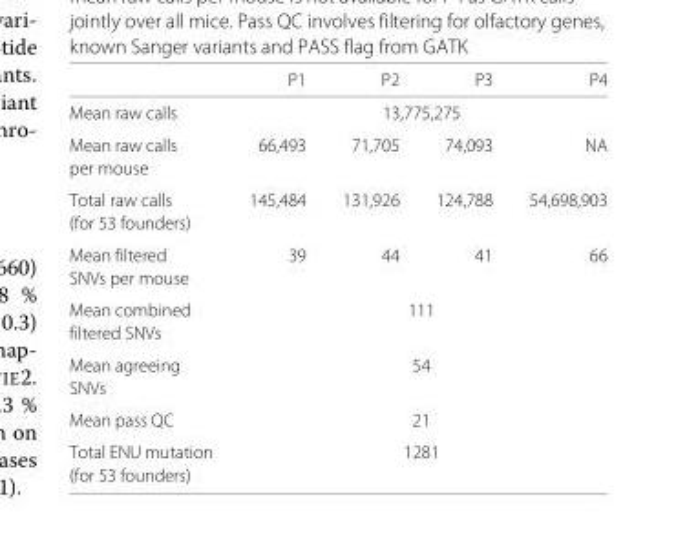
<table><thead><tr><td></td><td>P1</td><td>P2</td><td>P3</td><td>P4</td></tr></thead><tbody><tr><td>Mean raw calls</td><td colspan="4">13,775,275</td></tr><tr><td>Mean raw calls</td><td>66,493</td><td>71,705</td><td>74,093</td><td>NA</td></tr><tr><td colspan="5">per mouse</td></tr><tr><td>Total raw calls</td><td>145,484</td><td>131,926</td><td>124,788</td><td>54,698,903</td></tr><tr><td colspan="5">(for 53 founders)</td></tr><tr><td>Mean filtered</td><td>39</td><td>44</td><td>41</td><td>66</td></tr><tr><td colspan="5">SNVs per mouse</td></tr><tr><td>Mean combined</td><td colspan="4">111</td></tr><tr><td colspan="5">filtered SNVs</td></tr><tr><td>Mean agreeing</td><td colspan="4">54</td></tr><tr><td colspan="5">SNVs</td></tr><tr><td>Mean pass QC</td><td colspan="4">21</td></tr><tr><td>Total ENU mutation</td><td colspan="4">1281</td></tr><tr><td>(for 53 founders)</td><td></td><td></td><td></td><td></td></tr></tbody></table>